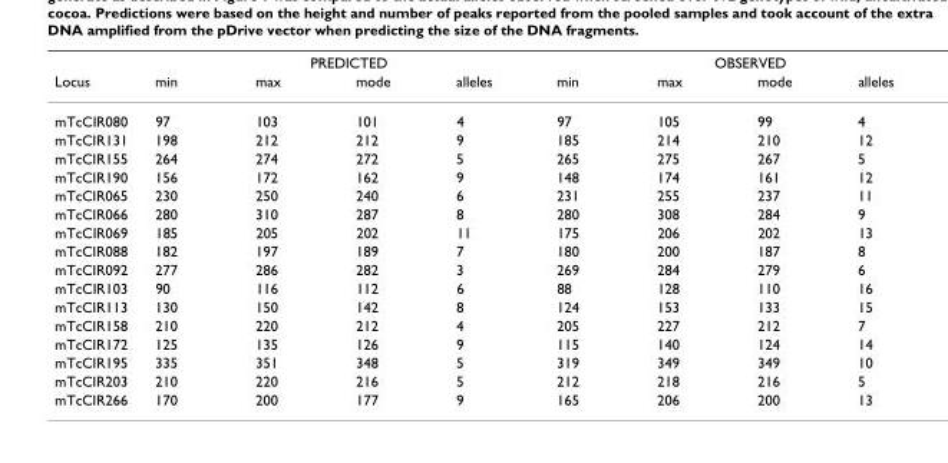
<table><thead><tr><td rowspan="2">Locus</td><td colspan="4">PREDICTED</td><td colspan="4">OBSERVED</td></tr><tr><td>min</td><td>max</td><td>mode</td><td>alleles</td><td>min</td><td>max</td><td>mode</td><td>alleles</td></tr></thead><tbody><tr><td>mTcCIR080</td><td>97</td><td>103</td><td>101</td><td>4</td><td>97</td><td>105</td><td>99</td><td>4</td></tr><tr><td>mTcCIR131</td><td>198</td><td>212</td><td>212</td><td>9</td><td>185</td><td>214</td><td>210</td><td>12</td></tr><tr><td>mTcCIR155</td><td>264</td><td>274</td><td>272</td><td>5</td><td>265</td><td>275</td><td>267</td><td>5</td></tr><tr><td>mTcCIR190</td><td>156</td><td>172</td><td>162</td><td>9</td><td>148</td><td>174</td><td>161</td><td>12</td></tr><tr><td>mTcCIR065</td><td>230</td><td>250</td><td>240</td><td>6</td><td>231</td><td>255</td><td>237</td><td>11</td></tr><tr><td>mTcCIR066</td><td>280</td><td>310</td><td>287</td><td>8</td><td>280</td><td>308</td><td>284</td><td>9</td></tr><tr><td>mTcCIR069</td><td>185</td><td>205</td><td>202</td><td>11</td><td>175</td><td>206</td><td>202</td><td>13</td></tr><tr><td>mTcCIR088</td><td>182</td><td>197</td><td>189</td><td>7</td><td>180</td><td>200</td><td>187</td><td>8</td></tr><tr><td>mTcCIR092</td><td>277</td><td>286</td><td>282</td><td>3</td><td>269</td><td>284</td><td>279</td><td>6</td></tr><tr><td>mTcCIR103</td><td>90</td><td>116</td><td>112</td><td>6</td><td>88</td><td>128</td><td>110</td><td>16</td></tr><tr><td>mTcCIR113</td><td>130</td><td>150</td><td>142</td><td>8</td><td>124</td><td>153</td><td>133</td><td>15</td></tr><tr><td>mTcCIR158</td><td>210</td><td>220</td><td>212</td><td>4</td><td>205</td><td>227</td><td>212</td><td>7</td></tr><tr><td>mTcCIR172</td><td>125</td><td>135</td><td>126</td><td>9</td><td>115</td><td>140</td><td>124</td><td>14</td></tr><tr><td>mTcCIR195</td><td>335</td><td>351</td><td>348</td><td>5</td><td>319</td><td>349</td><td>349</td><td>10</td></tr><tr><td>mTcCIR203</td><td>210</td><td>220</td><td>216</td><td>5</td><td>212</td><td>218</td><td>216</td><td>5</td></tr><tr><td>mTcCIR266</td><td>170</td><td>200</td><td>177</td><td>9</td><td>165</td><td>206</td><td>200</td><td>13</td></tr></tbody></table>